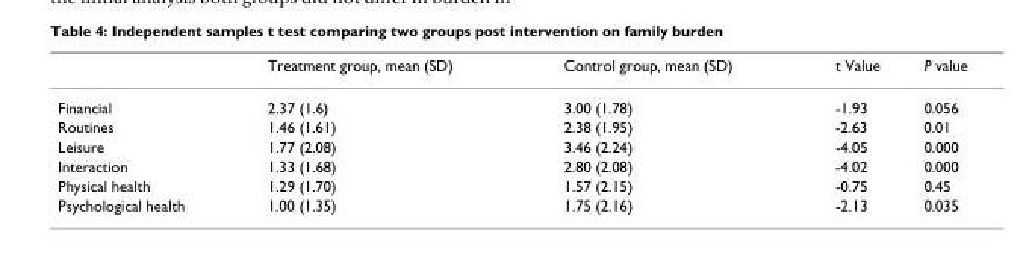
<table><thead><tr><td></td><td>Treatment group, mean (SD)</td><td>Control group, mean (SD)</td><td>t Value</td><td>P value</td></tr></thead><tbody><tr><td>Financial</td><td>2.37 (1.6)</td><td>3.00 (1.78)</td><td>-1.93</td><td>0.056</td></tr><tr><td>Routines</td><td>1.46 (1.61)</td><td>2.38 (1.95)</td><td>-2.63</td><td>0.01</td></tr><tr><td>Leisure</td><td>1.77 (2.08)</td><td>3.46 (2.24)</td><td>-4.05</td><td>0.000</td></tr><tr><td>Interaction</td><td>1.33 (1.68)</td><td>2.80 (2.08)</td><td>-4.02</td><td>0.000</td></tr><tr><td>Physical health</td><td>1.29 (1.70)</td><td>1.57 (2.15)</td><td>-0.75</td><td>0.45</td></tr><tr><td>Psychological health</td><td>1.00 (1.35)</td><td>1.75 (2.16)</td><td>-2.13</td><td>0.035</td></tr></tbody></table>